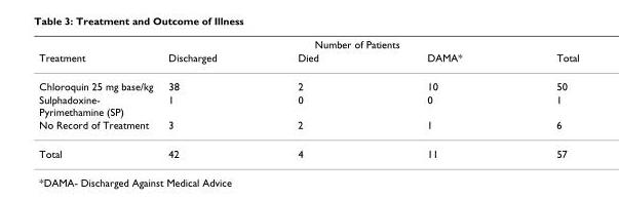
<table><thead><tr><td colspan="5">Number of Patients</td></tr><tr><td>Treatment</td><td>Discharged</td><td>Died</td><td>DAMA*</td><td>Total</td></tr></thead><tbody><tr><td>Chloroquin 25 mg base/kg</td><td>38</td><td>2</td><td>10</td><td>50</td></tr><tr><td>Sulphadoxine- Pyrimethamine (SP)</td><td>1</td><td>0</td><td>0</td><td>1</td></tr><tr><td>No Record of Treatment</td><td>3</td><td>2</td><td>1</td><td>6</td></tr><tr><td>Total</td><td>42</td><td>4</td><td>11</td><td>57</td></tr></tbody></table>